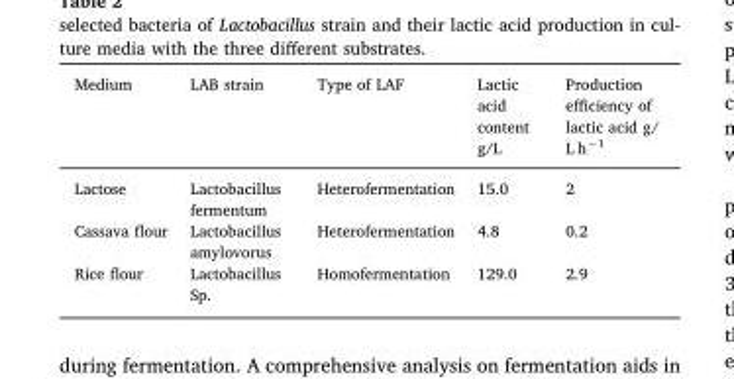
<table><thead><tr><td>Medium</td><td>LAB strain</td><td>Type of LAF</td><td>Lactic acid content g/L</td><td>Production efficiency of lactic acid g/ L h<sup>−1</sup></td></tr></thead><tbody><tr><td>Lactose</td><td>Lactobacillus fermentum</td><td>Heterofermentation</td><td>15.0</td><td>2</td></tr><tr><td>Cassava flour</td><td>Lactobacillus amylovorus</td><td>Heterofermentation</td><td>4.8</td><td>0.2</td></tr><tr><td>Rice flour</td><td>Lactobacillus Sp.</td><td>Homofermentation</td><td>129.0</td><td>2.9</td></tr></tbody></table>